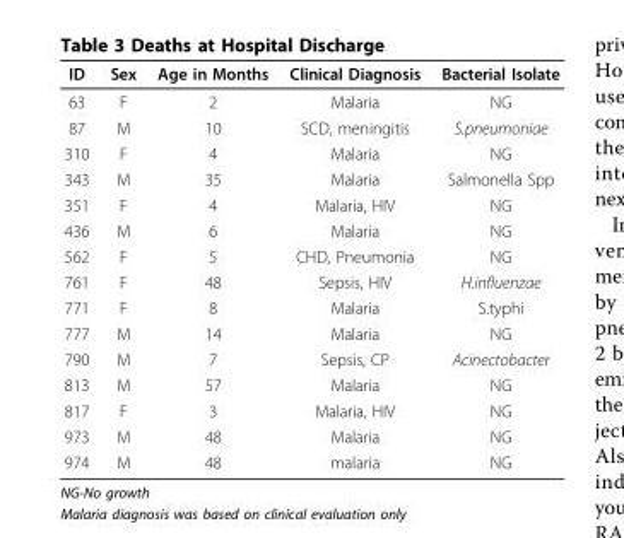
<table><thead><tr><td>ID</td><td>Sex</td><td>Age in Months</td><td>Clinical Diagnosis</td><td>Bacterial Isolate</td></tr></thead><tbody><tr><td>63</td><td>F</td><td>2</td><td>Malaria</td><td>NG</td></tr><tr><td>87</td><td>M</td><td>10</td><td>SCD, meningitis</td><td>S.pneumoniae</td></tr><tr><td>310</td><td>F</td><td>4</td><td>Malaria</td><td>NG</td></tr><tr><td>343</td><td>M</td><td>35</td><td>Malaria</td><td>Salmonella Spp</td></tr><tr><td>351</td><td>F</td><td>4</td><td>Malaria, HIV</td><td>NG</td></tr><tr><td>436</td><td>M</td><td>6</td><td>Malaria</td><td>NG</td></tr><tr><td>562</td><td>F</td><td>5</td><td>CHD, Pneumonia</td><td>NG</td></tr><tr><td>761</td><td>F</td><td>48</td><td>Sepsis, HIV</td><td>H.influenzae</td></tr><tr><td>771</td><td>F</td><td>8</td><td>Malaria</td><td>S.typhi</td></tr><tr><td>777</td><td>M</td><td>14</td><td>Malaria</td><td>NG</td></tr><tr><td>790</td><td>M</td><td>7</td><td>Sepsis, CP</td><td>Acinectobacter</td></tr><tr><td>813</td><td>M</td><td>57</td><td>Malaria</td><td>NG</td></tr><tr><td>817</td><td>F</td><td>3</td><td>Malaria, HIV</td><td>NG</td></tr><tr><td>973</td><td>M</td><td>48</td><td>Malaria</td><td>NG</td></tr><tr><td>974</td><td>M</td><td>48</td><td>malaria</td><td>NG</td></tr></tbody></table>